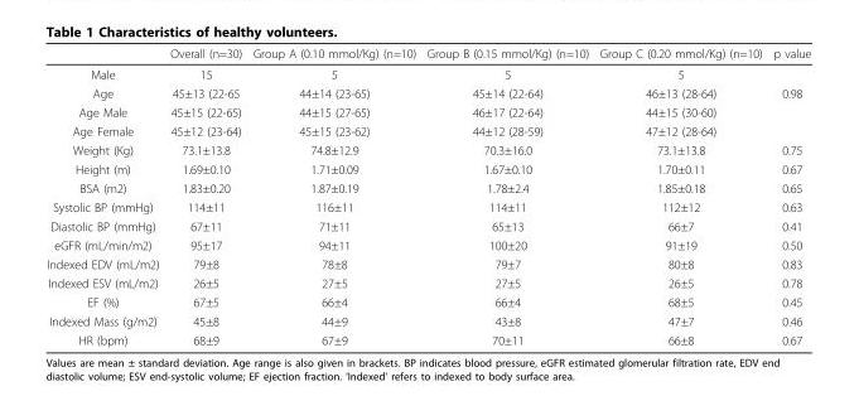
<table><thead><tr><td></td><td>Overall (n=30)</td><td>Group A (0.10 mmol/Kg) (n=10)</td><td>Group B (0.15 mmol/Kg) (n=10)</td><td>Group C (0.20 mmol/Kg) (n=10)</td><td>p value</td></tr></thead><tbody><tr><td>Male</td><td>15</td><td>5</td><td>5</td><td>5</td><td></td></tr><tr><td>Age</td><td>45±13 (22-65</td><td>44±14 (23-65)</td><td>45±14 (22-64)</td><td>46±13 (28-64)</td><td>0.98</td></tr><tr><td>Age Male</td><td>45±15 (22-65)</td><td>44±15 (27-65)</td><td>46±17 (22-64)</td><td>44±15 (30-60)</td><td></td></tr><tr><td>Age Female</td><td>45±12 (23-64)</td><td>45±15 (23-62)</td><td>44±12 (28-59)</td><td>47±12 (28-64)</td><td></td></tr><tr><td>Weight (Kg)</td><td>73.1±13.8</td><td>74.8±12.9</td><td>70.3±16.0</td><td>73.1±13.8</td><td>0.75</td></tr><tr><td>Height (m)</td><td>1.69±0.10</td><td>1.71±0.09</td><td>1.67±0.10</td><td>1.70±0.11</td><td>0.67</td></tr><tr><td>BSA (m2)</td><td>1.83±0.20</td><td>1.87±0.19</td><td>1.78±2.4</td><td>1.85±0.18</td><td>0.65</td></tr><tr><td>Systolic BP (mmHg)</td><td>114±11</td><td>116±11</td><td>114±11</td><td>112±12</td><td>0.63</td></tr><tr><td>Diastolic BP (mmHg)</td><td>67±11</td><td>71±11</td><td>65±13</td><td>66±7</td><td>0.41</td></tr><tr><td>eGFR (mL/min/m2)</td><td>95±17</td><td>94±11</td><td>100±20</td><td>91±19</td><td>0.50</td></tr><tr><td>Indexed EDV (mL/m2)</td><td>79±8</td><td>78±8</td><td>79±7</td><td>80±8</td><td>0.83</td></tr><tr><td>Indexed ESV (mL/m2)</td><td>26±5</td><td>27±5</td><td>27±5</td><td>26±5</td><td>0.78</td></tr><tr><td>EF (%)</td><td>67±5</td><td>66±4</td><td>66±4</td><td>68±5</td><td>0.45</td></tr><tr><td>Indexed Mass (g/m2)</td><td>45±8</td><td>44±9</td><td>43±8</td><td>47±7</td><td>0.46</td></tr><tr><td>HR (bpm)</td><td>68±9</td><td>67±9</td><td>70±11</td><td>66±8</td><td>0.67</td></tr></tbody></table>